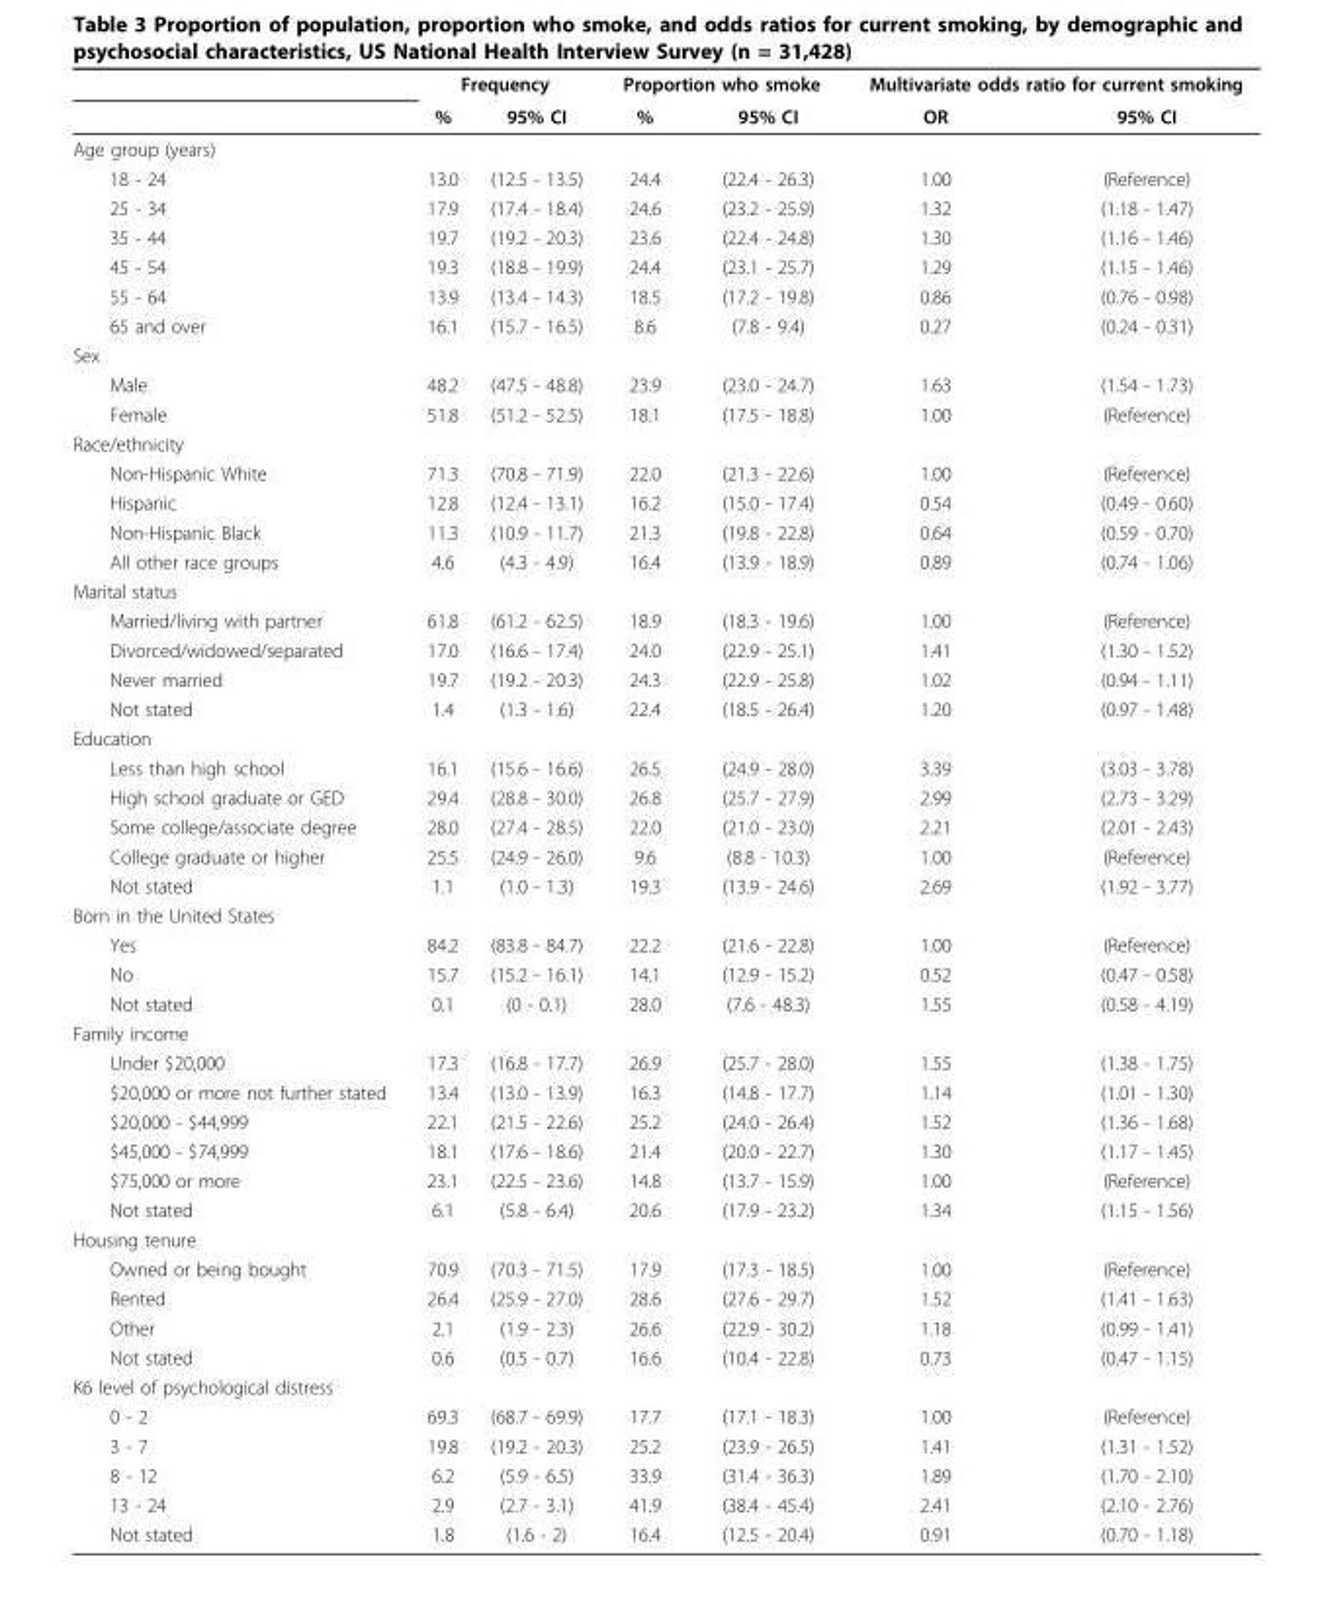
<table><thead><tr><td rowspan="2"></td><td colspan="2">Frequency</td><td colspan="2">Proportion who smoke</td><td colspan="2">Multivariate odds ratio for current smoking</td></tr><tr><td>%</td><td>95% CI</td><td>%</td><td>95% CI</td><td>OR</td><td>95% CI</td></tr></thead><tbody><tr><td colspan="7">Age group (years)</td></tr><tr><td>18 - 24</td><td>13.0</td><td>(12.5 - 13.5)</td><td>24.4</td><td>(22.4 - 26.3)</td><td>1.00</td><td>(Reference)</td></tr><tr><td>25 - 34</td><td>17.9</td><td>(17.4 - 18.4)</td><td>24.6</td><td>(23.2 - 25.9)</td><td>1.32</td><td>(1.18 - 1.47)</td></tr><tr><td>35 - 44</td><td>19.7</td><td>(19.2 - 20.3)</td><td>23.6</td><td>(22.4 - 24.8)</td><td>1.30</td><td>(1.16 - 1.46)</td></tr><tr><td>45 - 54</td><td>19.3</td><td>(18.8 - 19.9)</td><td>24.4</td><td>(23.1 - 25.7)</td><td>1.29</td><td>(1.15 - 1.46)</td></tr><tr><td>55 - 64</td><td>13.9</td><td>(13.4 - 14.3)</td><td>18.5</td><td>(17.2 - 19.8)</td><td>0.86</td><td>(0.76 - 0.98)</td></tr><tr><td>65 and over</td><td>16.1</td><td>(15.7 - 16.5)</td><td>8.6</td><td>(7.8 - 9.4)</td><td>0.27</td><td>(0.24 - 0.31)</td></tr><tr><td colspan="7">Sex</td></tr><tr><td>Male</td><td>48.2</td><td>(47.5 - 48.8)</td><td>23.9</td><td>(23.0 - 24.7)</td><td>1.63</td><td>(1.54 - 1.73)</td></tr><tr><td>Female</td><td>51.8</td><td>(51.2 - 52.5)</td><td>18.1</td><td>(17.5 - 18.8)</td><td>1.00</td><td>(Reference)</td></tr><tr><td colspan="7">Race/ethnicity</td></tr><tr><td>Non-Hispanic White</td><td>71.3</td><td>(70.8 - 71.9)</td><td>22.0</td><td>(21.3 - 22.6)</td><td>1.00</td><td>(Reference)</td></tr><tr><td>Hispanic</td><td>12.8</td><td>(12.4 - 13.1)</td><td>16.2</td><td>(15.0 - 17.4)</td><td>0.54</td><td>(0.49 - 0.60)</td></tr><tr><td>Non-Hispanic Black</td><td>11.3</td><td>(10.9 - 11.7)</td><td>21.3</td><td>(19.8 - 22.8)</td><td>0.64</td><td>(0.59 - 0.70)</td></tr><tr><td>All other race groups</td><td>4.6</td><td>(4.3 - 4.9)</td><td>16.4</td><td>(13.9 - 18.9)</td><td>0.89</td><td>(0.74 - 1.06)</td></tr><tr><td colspan="7">Marital status</td></tr><tr><td>Married/living with partner</td><td>61.8</td><td>(61.2 - 62.5)</td><td>18.9</td><td>(18.3 - 19.6)</td><td>1.00</td><td>(Reference)</td></tr><tr><td>Divorced/widowed/separated</td><td>17.0</td><td>(16.6 - 17.4)</td><td>24.0</td><td>(22.9 - 25.1)</td><td>1.41</td><td>(1.30 - 1.52)</td></tr><tr><td>Never married</td><td>19.7</td><td>(19.2 - 20.3)</td><td>24.3</td><td>(22.9 - 25.8)</td><td>1.02</td><td>(0.94 - 1.11)</td></tr><tr><td>Not stated</td><td>1.4</td><td>(1.3 - 1.6)</td><td>22.4</td><td>(18.5 - 26.4)</td><td>1.20</td><td>(0.97 - 1.48)</td></tr><tr><td colspan="7">Education</td></tr><tr><td>Less than high school</td><td>16.1</td><td>(15.6 - 16.6)</td><td>26.5</td><td>(24.9 - 28.0)</td><td>3.39</td><td>(3.03 - 3.78)</td></tr><tr><td>High school graduate or GED</td><td>29.4</td><td>(28.8 - 30.0)</td><td>26.8</td><td>(25.7 - 27.9)</td><td>2.99</td><td>(2.73 - 3.29)</td></tr><tr><td>Some college/associate degree</td><td>28.0</td><td>(27.4 - 28.5)</td><td>22.0</td><td>(21.0 - 23.0)</td><td>2.21</td><td>(2.01 - 2.43)</td></tr><tr><td>College graduate or higher</td><td>25.5</td><td>(24.9 - 26.0)</td><td>9.6</td><td>(8.8 - 10.3)</td><td>1.00</td><td>(Reference)</td></tr><tr><td>Not stated</td><td>1.1</td><td>(1.0 - 1.3)</td><td>19.3</td><td>(13.9 - 24.6)</td><td>2.69</td><td>(1.92 - 3.77)</td></tr><tr><td colspan="7">Born in the United States</td></tr><tr><td>Yes</td><td>84.2</td><td>(83.8 - 84.7)</td><td>22.2</td><td>(21.6 - 22.8)</td><td>1.00</td><td>(Reference)</td></tr><tr><td>No</td><td>15.7</td><td>(15.2 - 16.1)</td><td>14.1</td><td>(12.9 - 15.2)</td><td>0.52</td><td>(0.47 - 0.58)</td></tr><tr><td>Not stated</td><td>0.1</td><td>(0 - 0.1)</td><td>28.0</td><td>(7.6 - 48.3)</td><td>1.55</td><td>(0.58 - 4.19)</td></tr><tr><td colspan="7">Family income</td></tr><tr><td>Under $20,000</td><td>17.3</td><td>(16.8 - 17.7)</td><td>26.9</td><td>(25.7 - 28.0)</td><td>1.55</td><td>(1.38 - 1.75)</td></tr><tr><td>$20,000 or more not further stated</td><td>13.4</td><td>(13.0 - 13.9)</td><td>16.3</td><td>(14.8 - 17.7)</td><td>1.14</td><td>(1.01 - 1.30)</td></tr><tr><td>$20,000 - $44,999</td><td>22.1</td><td>(21.5 - 22.6)</td><td>25.2</td><td>(24.0 - 26.4)</td><td>1.52</td><td>(1.36 - 1.68)</td></tr><tr><td>$45,000 - $74,999</td><td>18.1</td><td>(17.6 - 18.6)</td><td>21.4</td><td>(20.0 - 22.7)</td><td>1.30</td><td>(1.17 - 1.45)</td></tr><tr><td>$75,000 or more</td><td>23.1</td><td>(22.5 - 23.6)</td><td>14.8</td><td>(13.7 - 15.9)</td><td>1.00</td><td>(Reference)</td></tr><tr><td>Not stated</td><td>6.1</td><td>(5.8 - 6.4)</td><td>20.6</td><td>(17.9 - 23.2)</td><td>1.34</td><td>(1.15 - 1.56)</td></tr><tr><td colspan="7">Housing tenure</td></tr><tr><td>Owned or being bought</td><td>70.9</td><td>(70.3 - 71.5)</td><td>17.9</td><td>(17.3 - 18.5)</td><td>1.00</td><td>(Reference)</td></tr><tr><td>Rented</td><td>26.4</td><td>(25.9 - 27.0)</td><td>28.6</td><td>(27.6 - 29.7)</td><td>1.52</td><td>(1.41 - 1.63)</td></tr><tr><td>Other</td><td>2.1</td><td>(1.9 - 2.3)</td><td>26.6</td><td>(22.9 - 30.2)</td><td>1.18</td><td>(0.99 - 1.41)</td></tr><tr><td>Not stated</td><td>0.6</td><td>(0.5 - 0.7)</td><td>16.6</td><td>(10.4 - 22.8)</td><td>0.73</td><td>(0.47 - 1.15)</td></tr><tr><td colspan="7">K6 level of psychological distress</td></tr><tr><td>0 - 2</td><td>69.3</td><td>(68.7 - 69.9)</td><td>17.7</td><td>(17.1 - 18.3)</td><td>1.00</td><td>(Reference)</td></tr><tr><td>3 - 7</td><td>19.8</td><td>(19.2 - 20.3)</td><td>25.2</td><td>(23.9 - 26.5)</td><td>1.41</td><td>(1.31 - 1.52)</td></tr><tr><td>8 - 12</td><td>6.2</td><td>(5.9 - 6.5)</td><td>33.9</td><td>(31.4 - 36.3)</td><td>1.89</td><td>(1.70 - 2.10)</td></tr><tr><td>13 - 24</td><td>2.9</td><td>(2.7 - 3.1)</td><td>41.9</td><td>(38.4 - 45.4)</td><td>2.41</td><td>(2.10 - 2.76)</td></tr><tr><td>Not stated</td><td>1.8</td><td>(1.6 - 2)</td><td>16.4</td><td>(12.5 - 20.4)</td><td>0.91</td><td>(0.70 - 1.18)</td></tr></tbody></table>